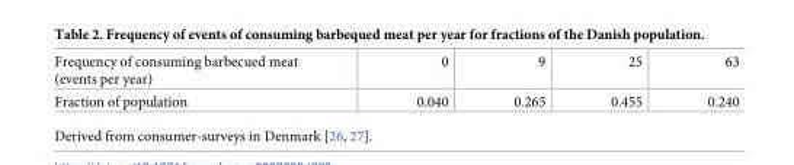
<table><tbody><tr><td>Frequency of consuming barbecued meat (events per year)</td><td>0</td><td>9</td><td>25</td><td>63</td></tr><tr><td>Fraction of population</td><td>0.040</td><td>0.265</td><td>0.455</td><td>0.240</td></tr></tbody></table>